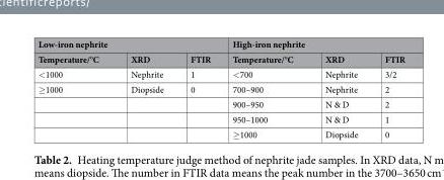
<table><thead><tr><td colspan="3">Low-iron nephrite</td><td colspan="3">High-iron nephrite</td></tr><tr><td>Temperature/°C</td><td>XRD</td><td>FTIR</td><td>Temperature/°C</td><td>XRD</td><td>FTIR</td></tr></thead><tbody><tr><td>&lt;1000</td><td>Nephrite</td><td>1</td><td>&lt;700</td><td>Nephrite</td><td>3/2</td></tr><tr><td rowspan="4">≥1000</td><td>Diopside</td><td>0</td><td>700–900</td><td>Nephrite</td><td>2</td></tr><tr><td></td><td></td><td>900–950</td><td>N &amp; D</td><td>2</td></tr><tr><td></td><td></td><td>950–1000</td><td>N &amp; D</td><td>1</td></tr><tr><td></td><td></td><td>≥1000</td><td>Diopside</td><td>0</td></tr></tbody></table>